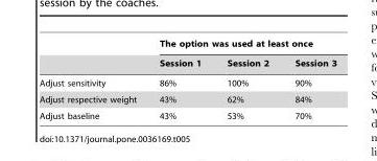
<table><thead><tr><td rowspan="2"></td><td colspan="3">The option was used at least once</td></tr><tr><td>Session 1</td><td>Session 2</td><td>Session 3</td></tr></thead><tbody><tr><td>Adjust sensitivity</td><td>86%</td><td>100%</td><td>90%</td></tr><tr><td>Adjust respective weight</td><td>43%</td><td>62%</td><td>84%</td></tr><tr><td>Adjust baseline</td><td>43%</td><td>53%</td><td>70%</td></tr></tbody></table>